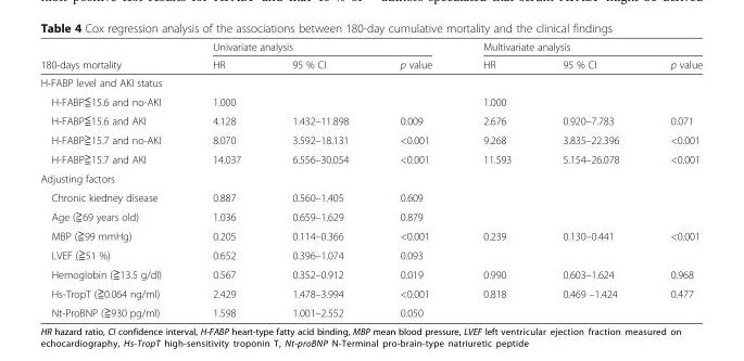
<table><thead><tr><td rowspan="2">180-days mortality</td><td colspan="3">Univariate analysis</td><td colspan="3">Multivariate analysis</td></tr><tr><td>HR</td><td>95 % CI</td><td>p value</td><td>HR</td><td>95 % CI</td><td>p value</td></tr></thead><tbody><tr><td colspan="7">H-FABP level and AKI status</td></tr><tr><td>H-FABP≦15.6 and no-AKI</td><td>1.000</td><td></td><td></td><td>1.000</td><td></td><td></td></tr><tr><td>H-FABP≦15.6 and AKI</td><td>4.128</td><td>1.432–11.898</td><td>0.009</td><td>2.676</td><td>0.920–7.783</td><td>0.071</td></tr><tr><td>H-FABP≧15.7 and no-AKI</td><td>8.070</td><td>3.592–18.131</td><td>&lt;0.001</td><td>9.268</td><td>3.835–22.396</td><td>&lt;0.001</td></tr><tr><td>H-FABP≧15.7 and AKI</td><td>14.037</td><td>6.556–30.054</td><td>&lt;0.001</td><td>11.593</td><td>5.154–26.078</td><td>&lt;0.001</td></tr><tr><td colspan="7">Adjusting factors</td></tr><tr><td>Chronic kiedney disease</td><td>0.887</td><td>0.560–1.405</td><td>0.609</td><td></td><td></td><td></td></tr><tr><td>Age (≧69 years old)</td><td>1.036</td><td>0.659–1.629</td><td>0.879</td><td></td><td></td><td></td></tr><tr><td>MBP (≧99 mmHg)</td><td>0.205</td><td>0.114–0.366</td><td>&lt;0.001</td><td>0.239</td><td>0.130–0.441</td><td>&lt;0.001</td></tr><tr><td>LVEF (≧51 %)</td><td>0.652</td><td>0.396–1.074</td><td>0.093</td><td></td><td></td><td></td></tr><tr><td>Hemoglobin (≧13.5 g/dl)</td><td>0.567</td><td>0.352–0.912</td><td>0.019</td><td>0.990</td><td>0.603–1.624</td><td>0.968</td></tr><tr><td>Hs-TropT (≧0.064 ng/ml)</td><td>2.429</td><td>1.478–3.994</td><td>&lt;0.001</td><td>0.818</td><td>0.469 –1.424</td><td>0.477</td></tr><tr><td>Nt-ProBNP (≧930 pg/ml)</td><td>1.598</td><td>1.001–2.552</td><td>0.050</td><td></td><td></td><td></td></tr></tbody></table>